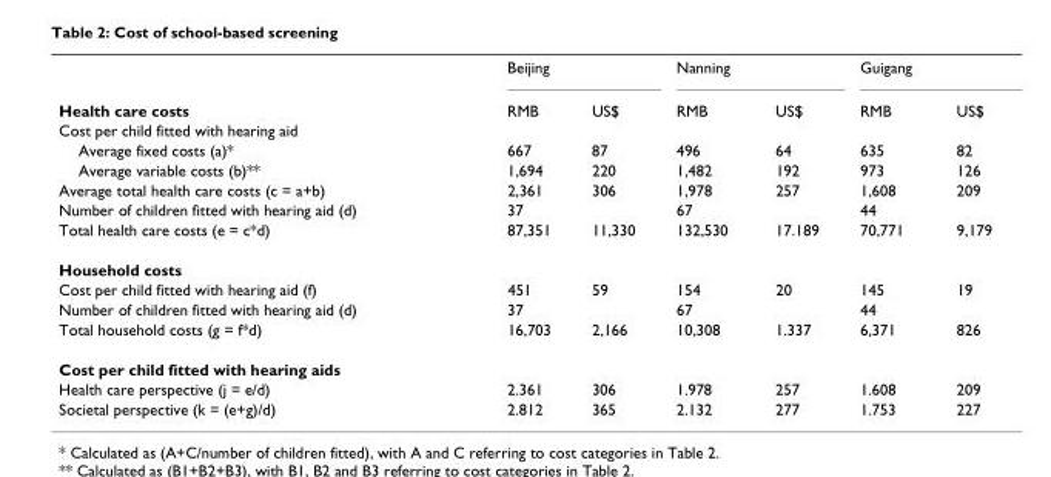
<table><thead><tr><td></td><td>Beijing</td><td></td><td>Nanning</td><td></td><td>Guigang</td><td></td></tr></thead><tbody><tr><td>Health care costs</td><td>RMB</td><td>US$</td><td>RMB</td><td>US$</td><td>RMB</td><td>US$</td></tr><tr><td colspan="7">Cost per child fitted with hearing aid</td></tr><tr><td>Average fixed costs (a)*</td><td>667</td><td>87</td><td>496</td><td>64</td><td>635</td><td>82</td></tr><tr><td>Average variable costs (b)**</td><td>1,694</td><td>220</td><td>1,482</td><td>192</td><td>973</td><td>126</td></tr><tr><td>Average total health care costs (c = a+b)</td><td>2,361</td><td>306</td><td>1,978</td><td>257</td><td>1,608</td><td>209</td></tr><tr><td>Number of children fitted with hearing aid (d)</td><td>37</td><td></td><td>67</td><td></td><td>44</td><td></td></tr><tr><td>Total health care costs (e = c*d)</td><td>87,351</td><td>11,330</td><td>132,530</td><td>17.189</td><td>70,771</td><td>9,179</td></tr><tr><td colspan="7">Household costs</td></tr><tr><td>Cost per child fitted with hearing aid (f)</td><td>451</td><td>59</td><td>154</td><td>20</td><td>145</td><td>19</td></tr><tr><td>Number of children fitted with hearing aid (d)</td><td>37</td><td></td><td>67</td><td></td><td>44</td><td></td></tr><tr><td>Total household costs (g = f*d)</td><td>16,703</td><td>2,166</td><td>10,308</td><td>1.337</td><td>6,371</td><td>826</td></tr><tr><td colspan="7">Cost per child fitted with hearing aids</td></tr><tr><td>Health care perspective (j = e/d)</td><td>2.361</td><td>306</td><td>1.978</td><td>257</td><td>1.608</td><td>209</td></tr><tr><td>Societal perspective (k = (e+g)/d)</td><td>2.812</td><td>365</td><td>2.132</td><td>277</td><td>1.753</td><td>227</td></tr></tbody></table>